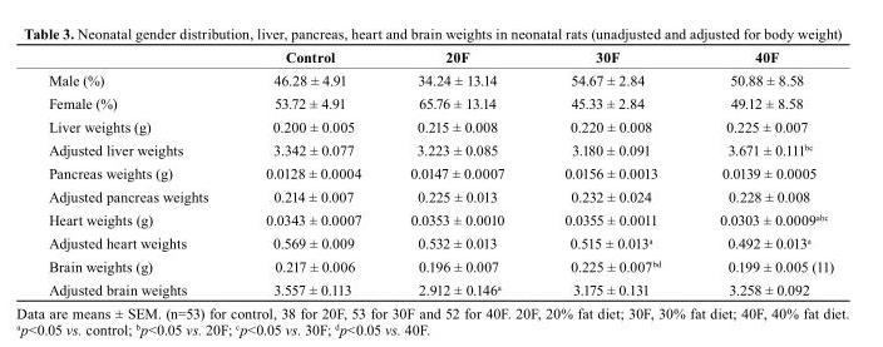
<table><thead><tr><td></td><td>control</td><td>20F</td><td>30F</td><td>40F</td></tr></thead><tbody><tr><td>Male (%)</td><td>46.28 ± 4.91</td><td>34.24 ± 13.14</td><td>54.67 ± 2.84</td><td>50.88 ± 8.58</td></tr><tr><td>Female (%)</td><td>53.72 ± 4.91</td><td>65.76 ± 13.14</td><td>45.33 ± 2.84</td><td>49.12 ± 8.58</td></tr><tr><td>Liver weights (g)</td><td>0.200 ± 0.005</td><td>0.215 ± 0.008</td><td>0.220 ± 0.008</td><td>0.225 ± 0.007</td></tr><tr><td>Adjusted liver weights</td><td>3.342 ± 0.077</td><td>3.223 ± 0.085</td><td>3.180 ± 0.091</td><td>3.671 ± 0.111<sup>bc</sup></td></tr><tr><td>Pancreas weights (g)</td><td>0.0128 ± 0.0004</td><td>0.0147 ± 0.0007</td><td>0.0156 ± 0.0013</td><td>0.0139 ± 0.0005</td></tr><tr><td>Adjusted pancreas weights</td><td>0.214 ± 0.007</td><td>0.225 ± 0.013</td><td>0.232 ± 0.024</td><td>0.228 ± 0.008</td></tr><tr><td>Heart weights (g)</td><td>0.0343 ± 0.0007</td><td>0.0353 ± 0.0010</td><td>0.0355 ± 0.0011</td><td>0.0303 ± 0.0009<sup>abc</sup></td></tr><tr><td>Adjusted heart weights</td><td>0.569 ± 0.009</td><td>0.532 ± 0.013</td><td>0.515 ± 0.013<sup>a</sup></td><td>0.492 ± 0.013<sup>a</sup></td></tr><tr><td>Brain weights (g)</td><td>0.217 ± 0.006</td><td>0.196 ± 0.007</td><td>0.225 ± 0.007<sup>bd</sup></td><td>0.199 ± 0.005 (11)</td></tr><tr><td>Adjusted brain weights</td><td>3.557 ± 0.113</td><td>2.912 ± 0.146<sup>a</sup></td><td>3.175 ± 0.131</td><td>3.258 ± 0.092</td></tr></tbody></table>